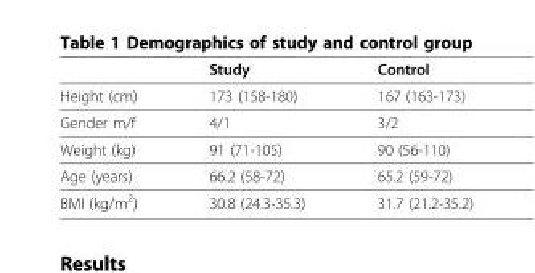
<table><thead><tr><td></td><td>Study</td><td>Control</td></tr></thead><tbody><tr><td>Height (cm)</td><td>173 (158-180)</td><td>167 (163-173)</td></tr><tr><td>Gender m/f</td><td>4/1</td><td>3/2</td></tr><tr><td>Weight (kg)</td><td>91 (71-105)</td><td>90 (56-110)</td></tr><tr><td>Age (years)</td><td>66.2 (58-72)</td><td>65.2 (59-72)</td></tr><tr><td>BMI (kg/m<sup>2</sup>)</td><td>30.8 (24.3-35.3)</td><td>31.7 (21.2-35.2)</td></tr></tbody></table>